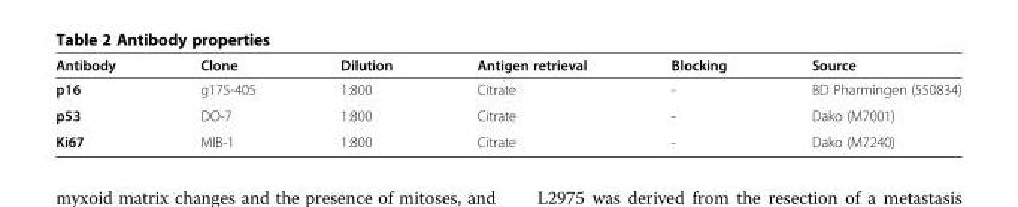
<table><thead><tr><td>Antibody</td><td>Clone</td><td>Dilution</td><td>Antigen retrieval</td><td>Blocking</td><td>Source</td></tr></thead><tbody><tr><td>p16</td><td>g175-405</td><td>1:800</td><td>Citrate</td><td>-</td><td>BD Pharmingen (550834)</td></tr><tr><td>p53</td><td>DO-7</td><td>1:800</td><td>Citrate</td><td>-</td><td>Dako (M7001)</td></tr><tr><td>Ki67</td><td>MIB-1</td><td>1:800</td><td>Citrate</td><td>-</td><td>Dako (M7240)</td></tr></tbody></table>